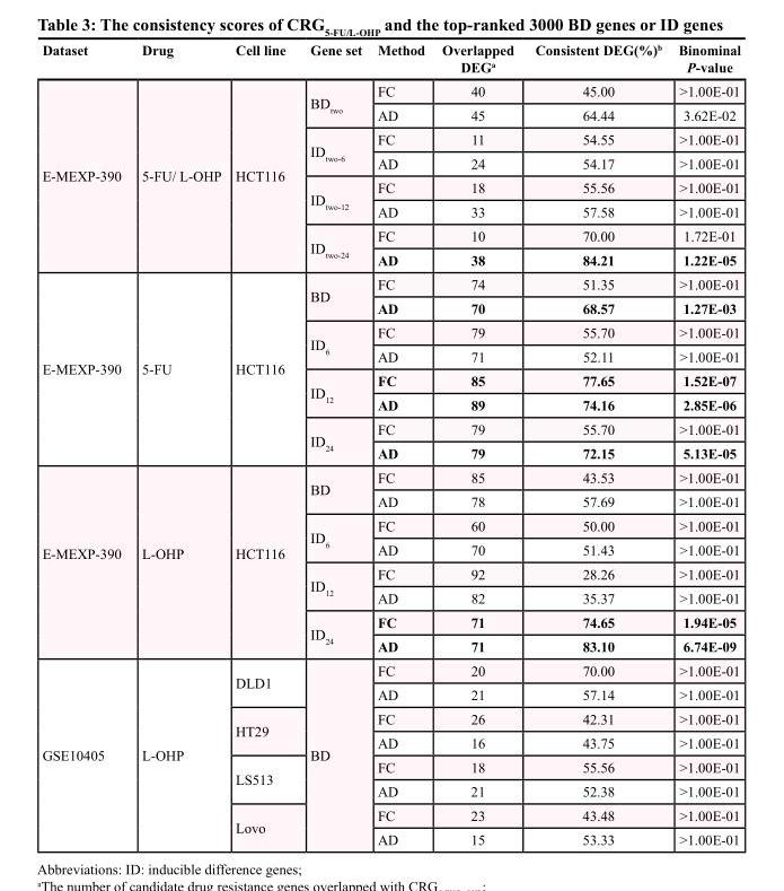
<table><thead><tr><td>Dataset</td><td>Drug</td><td>Cell line</td><td>Gene set</td><td>Method</td><td>Overlapped DEG<sup>a</sup></td><td>Consistent DEG(%)<sup>b</sup></td><td>Binominal P-value</td></tr></thead><tbody><tr><td rowspan="8">E-MEXP-390</td><td rowspan="8">5-FU/ L-OHP</td><td rowspan="8">HCT116</td><td rowspan="2">BD<sub>two</sub></td><td>FC</td><td>40</td><td>45.00</td><td>&gt;1.00E-01</td></tr><tr><td>AD</td><td>45</td><td>64.44</td><td>3.62E-02</td></tr><tr><td rowspan="2">ID<sub>two-6</sub></td><td>FC</td><td>11</td><td>54.55</td><td>&gt;1.00E-01</td></tr><tr><td>AD</td><td>24</td><td>54.17</td><td>&gt;1.00E-01</td></tr><tr><td rowspan="2">ID<sub>two-12</sub></td><td>FC</td><td>18</td><td>55.56</td><td>&gt;1.00E-01</td></tr><tr><td>AD</td><td>33</td><td>57.58</td><td>&gt;1.00E-01</td></tr><tr><td rowspan="2">ID<sub>two-24</sub></td><td>FC</td><td>10</td><td>70.00</td><td>1.72E-01</td></tr><tr><td>AD</td><td>38</td><td>84.21</td><td>1.22E-05</td></tr><tr><td rowspan="8">E-MEXP-390</td><td rowspan="8">5-FU</td><td rowspan="8">HCT116</td><td rowspan="2">BD</td><td>FC</td><td>74</td><td>51.35</td><td>&gt;1.00E-01</td></tr><tr><td>AD</td><td>70</td><td>68.57</td><td>1.27E-03</td></tr><tr><td rowspan="2">ID<sub>6</sub></td><td>FC</td><td>79</td><td>55.70</td><td>&gt;1.00E-01</td></tr><tr><td>AD</td><td>71</td><td>52.11</td><td>&gt;1.00E-01</td></tr><tr><td rowspan="2">ID<sub>12</sub></td><td>FC</td><td>85</td><td>77.65</td><td>1.52E-07</td></tr><tr><td>AD</td><td>89</td><td>74.16</td><td>2.85E-06</td></tr><tr><td rowspan="2">ID<sub>24</sub></td><td>FC</td><td>79</td><td>55.70</td><td>&gt;1.00E-01</td></tr><tr><td>AD</td><td>79</td><td>72.15</td><td>5.13E-05</td></tr><tr><td rowspan="8">E-MEXP-390</td><td rowspan="8">L-OHP</td><td rowspan="8">HCT116</td><td rowspan="2">BD</td><td>FC</td><td>85</td><td>43.53</td><td>&gt;1.00E-01</td></tr><tr><td>AD</td><td>78</td><td>57.69</td><td>&gt;1.00E-01</td></tr><tr><td rowspan="2">ID<sub>6</sub></td><td>FC</td><td>60</td><td>50.00</td><td>&gt;1.00E-01</td></tr><tr><td>AD</td><td>70</td><td>51.43</td><td>&gt;1.00E-01</td></tr><tr><td rowspan="2">ID<sub>12</sub></td><td>FC</td><td>92</td><td>28.26</td><td>&gt;1.00E-01</td></tr><tr><td>AD</td><td>82</td><td>35.37</td><td>&gt;1.00E-01</td></tr><tr><td rowspan="2">ID<sub>24</sub></td><td>FC</td><td>71</td><td>74.65</td><td>1.94E-05</td></tr><tr><td>AD</td><td>71</td><td>83.10</td><td>6.74E-09</td></tr><tr><td rowspan="8">GSE10405</td><td rowspan="8">L-OHP</td><td rowspan="2">DLD1</td><td rowspan="8">BD</td><td>FC</td><td>20</td><td>70.00</td><td>&gt;1.00E-01</td></tr><tr><td>AD</td><td>21</td><td>57.14</td><td>&gt;1.00E-01</td></tr><tr><td rowspan="2">HT29</td><td>FC</td><td>26</td><td>42.31</td><td>&gt;1.00E-01</td></tr><tr><td>AD</td><td>16</td><td>43.75</td><td>&gt;1.00E-01</td></tr><tr><td rowspan="2">LS513</td><td>FC</td><td>18</td><td>55.56</td><td>&gt;1.00E-01</td></tr><tr><td>AD</td><td>21</td><td>52.38</td><td>&gt;1.00E-01</td></tr><tr><td rowspan="2">Lovo</td><td>FC</td><td>23</td><td>43.48</td><td>&gt;1.00E-01</td></tr><tr><td>AD</td><td>15</td><td>53.33</td><td>&gt;1.00E-01</td></tr></tbody></table>